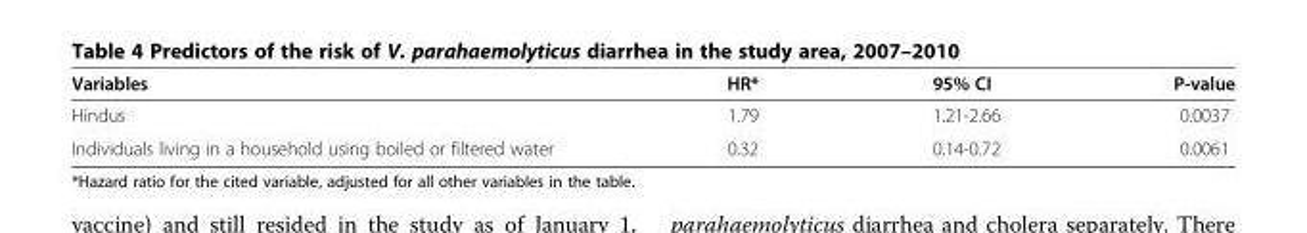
<table><thead><tr><td>Variables</td><td>HR*</td><td>95% CI</td><td>P-value</td></tr></thead><tbody><tr><td>Hindus</td><td>1.79</td><td>1.21-2.66</td><td>0.0037</td></tr><tr><td>Individuals living in a household using boiled or filtered water</td><td>0.32</td><td>0.14-0.72</td><td>0.0061</td></tr></tbody></table>